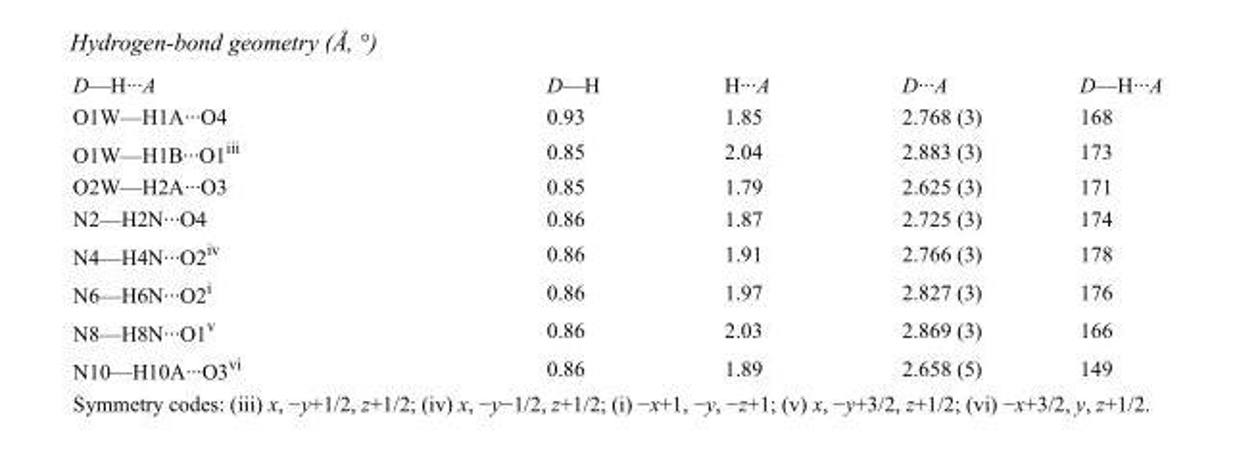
<table><tbody><tr><td>D—H···A</td><td>D—H</td><td>H···A</td><td>D···A</td><td>D—H···A</td></tr><tr><td>O1W—H1A···O4</td><td>0.93</td><td>1.85</td><td>2.768 (3)</td><td>168</td></tr><tr><td>O1W—H1B···O1<sup>iii</sup></td><td>0.85</td><td>2.04</td><td>2.883 (3)</td><td>173</td></tr><tr><td>O2W—H2A···O3</td><td>0.85</td><td>1.79</td><td>2.625 (3)</td><td>171</td></tr><tr><td>N2—H2N···O4</td><td>0.86</td><td>1.87</td><td>2.725 (3)</td><td>174</td></tr><tr><td>N4—H4N···O2<sup>iv</sup></td><td>0.86</td><td>1.91</td><td>2.766 (3)</td><td>178</td></tr><tr><td>N6—H6N···O2<sup>i</sup></td><td>0.86</td><td>1.97</td><td>2.827 (3)</td><td>176</td></tr><tr><td>N8—H8N···O1<sup>v</sup></td><td>0.86</td><td>2.03</td><td>2.869 (3)</td><td>166</td></tr><tr><td>N10—H10A···O3<sup>vi</sup></td><td>0.86</td><td>1.89</td><td>2.658 (5)</td><td>149</td></tr></tbody></table>